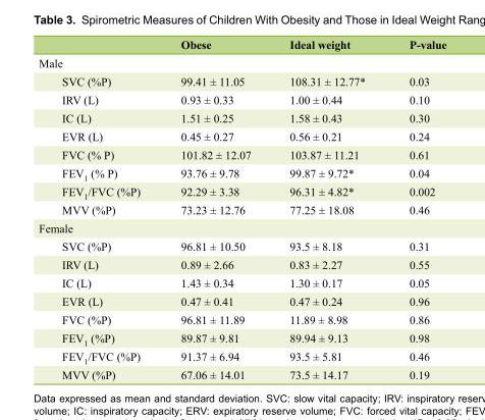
<table><thead><tr><td></td><td>Obese</td><td>Ideal weight</td><td>P-value</td></tr></thead><tbody><tr><td colspan="4">Male</td></tr><tr><td>SVC (%P)</td><td>99.41 ± 11.05</td><td>108.31 ± 12.77*</td><td>0.03</td></tr><tr><td>IRV (L)</td><td>0.93 ± 0.33</td><td>1.00 ± 0.44</td><td>0.10</td></tr><tr><td>IC (L)</td><td>1.51 ± 0.25</td><td>1.58 ± 0.43</td><td>0.30</td></tr><tr><td>EVR (L)</td><td>0.45 ± 0.27</td><td>0.56 ± 0.21</td><td>0.24</td></tr><tr><td>FVC (% P)</td><td>101.82 ± 12.07</td><td>103.87 ± 11.21</td><td>0.61</td></tr><tr><td>FEV<sub>1</sub> (% P)</td><td>93.76 ± 9.78</td><td>99.87 ± 9.72*</td><td>0.04</td></tr><tr><td>FEV<sub>1</sub>/FVC (%P)</td><td>92.29 ± 3.38</td><td>96.31 ± 4.82*</td><td>0.002</td></tr><tr><td>MVV (%P)</td><td>73.23 ± 12.76</td><td>77.25 ± 18.08</td><td>0.46</td></tr><tr><td colspan="4">Female</td></tr><tr><td>SVC (%P)</td><td>96.81 ± 10.50</td><td>93.5 ± 8.18</td><td>0.31</td></tr><tr><td>IRV (L)</td><td>0.89 ± 2.66</td><td>0.83 ± 2.27</td><td>0.55</td></tr><tr><td>IC (L)</td><td>1.43 ± 0.34</td><td>1.30 ± 0.17</td><td>0.05</td></tr><tr><td>EVR (L)</td><td>0.47 ± 0.41</td><td>0.47 ± 0.24</td><td>0.96</td></tr><tr><td>FVC (%P)</td><td>96.81 ± 11.89</td><td>11.89 ± 8.98</td><td>0.86</td></tr><tr><td>FEV<sub>1</sub> (%P)</td><td>89.87 ± 9.81</td><td>89.94 ± 9.13</td><td>0.98</td></tr><tr><td>FEV<sub>1</sub>/FVC (%P)</td><td>91.37 ± 6.94</td><td>93.5 ± 5.81</td><td>0.46</td></tr><tr><td>MVV (%P)</td><td>67.06 ± 14.01</td><td>73.5 ± 14.17</td><td>0.19</td></tr></tbody></table>